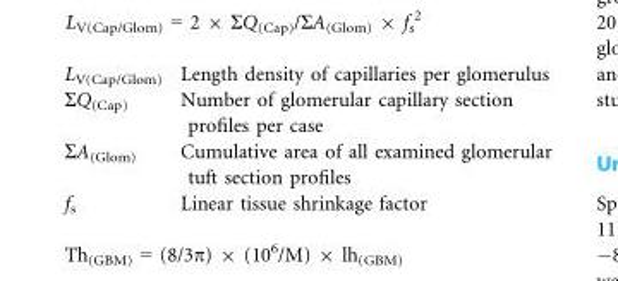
<table><tbody><tr><td>L<sub>V(Cap/Glom)</sub></td><td>Length density of capillaries per glomerulus</td></tr><tr><td>ΣQ<sub>(Cap)</sub></td><td>Number of glomerular capillary section profiles per case</td></tr><tr><td>ΣA<sub>(Glom)</sub></td><td>Cumulative area of all examined glomerular tuft section profiles</td></tr><tr><td>f<sub>s</sub></td><td>Linear tissue shrinkage factor</td></tr></tbody></table>